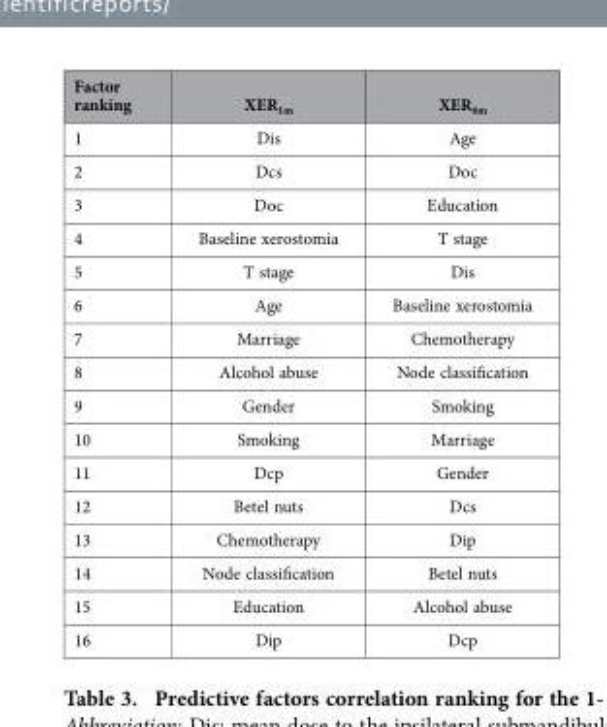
<table><thead><tr><td>Factor ranking</td><td>XER<sub>1m</sub></td><td>XER<sub>6m</sub></td></tr></thead><tbody><tr><td>1</td><td>Dis</td><td>Age</td></tr><tr><td>2</td><td>Dcs</td><td>Doc</td></tr><tr><td>3</td><td>Doc</td><td>Education</td></tr><tr><td>4</td><td>Baseline xerostomia</td><td>T stage</td></tr><tr><td>5</td><td>T stage</td><td>Dis</td></tr><tr><td>6</td><td>Age</td><td>Baseline xerostomia</td></tr><tr><td>7</td><td>Marriage</td><td>Chemotherapy</td></tr><tr><td>8</td><td>Alcohol abuse</td><td>Node classification</td></tr><tr><td>9</td><td>Gender</td><td>Smoking</td></tr><tr><td>10</td><td>Smoking</td><td>Marriage</td></tr><tr><td>11</td><td>Dcp</td><td>Gender</td></tr><tr><td>12</td><td>Betel nuts</td><td>Dcs</td></tr><tr><td>13</td><td>Chemotherapy</td><td>Dip</td></tr><tr><td>14</td><td>Node classification</td><td>Betel nuts</td></tr><tr><td>15</td><td>Education</td><td>Alcohol abuse</td></tr><tr><td>16</td><td>Dip</td><td>Dcp</td></tr></tbody></table>